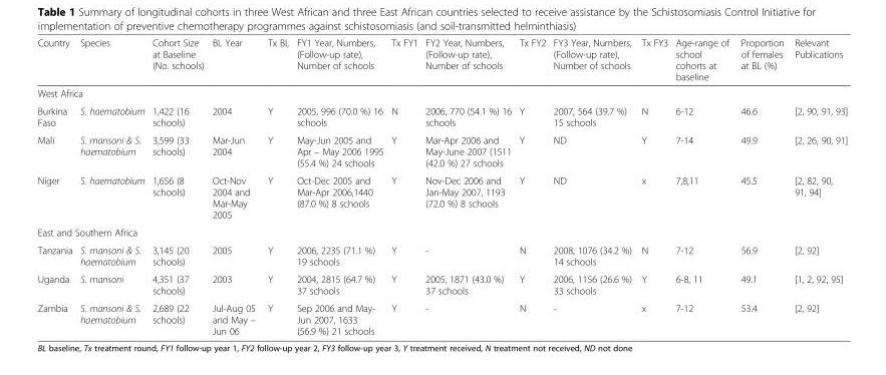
<table><thead><tr><td>Country</td><td>Species</td><td>Cohort Size at Baseline (No. schools)</td><td>BL Year</td><td>Tx BL</td><td>FY1 Year, Numbers, (Follow-up rate), Number of schools</td><td>Tx FY1</td><td>FY2 Year, Numbers, (Follow-up rate), Number of schools</td><td>Tx FY2</td><td>FY3 Year, Numbers, (Follow-up rate), Number of schools</td><td>Tx FY3</td><td>Age-range of school cohorts at baseline</td><td>Proportion of females at BL (%)</td><td>Relevant Publications</td></tr></thead><tbody><tr><td colspan="14">West Africa</td></tr><tr><td>Burkina Faso</td><td>S. haematobium</td><td>1,422 (16 schools)</td><td>2004</td><td>Y</td><td>2005, 996 (70.0 %) 16 schools</td><td>N</td><td>2006, 770 (54.1 %) 16 schools</td><td>Y</td><td>2007, 564 (39.7 %) 15 schools</td><td>N</td><td>6-12</td><td>46.6</td><td>[2, 90, 91, 93]</td></tr><tr><td>Mali</td><td>S. mansoni &amp; S. haematobium</td><td>3,599 (33 schools)</td><td>Mar-Jun 2004</td><td>Y</td><td>May-Jun 2005 and Apr – May 2006 1995 (55.4 %) 24 schools</td><td>Y</td><td>Mar-Apr 2006 and May-June 2007 (1511 (42.0 %) 27 schools</td><td>Y</td><td>ND</td><td>Y</td><td>7-14</td><td>49.9</td><td>[2, 26, 90, 91]</td></tr><tr><td>Niger</td><td>S. haematobium</td><td>1,656 (8 schools)</td><td>Oct-Nov 2004 and Mar-May 2005</td><td>Y</td><td>Oct-Dec 2005 and Mar-Apr 2006,1440 (87.0 %) 8 schools</td><td>Y</td><td>Nov-Dec 2006 and Jan-May 2007, 1193 (72.0 %) 8 schools</td><td>Y</td><td>ND</td><td>x</td><td>7,8,11</td><td>45.5</td><td>[2, 82, 90, 91, 94]</td></tr><tr><td colspan="14">East and Southern Africa</td></tr><tr><td>Tanzania</td><td>S. mansoni &amp; S. haematobium</td><td>3,145 (20 schools)</td><td>2005</td><td>Y</td><td>2006, 2235 (71.1 %) 19 schools</td><td>Y</td><td>-</td><td>N</td><td>2008, 1076 (34.2 %) 14 schools</td><td>N</td><td>7-12</td><td>56.9</td><td>[2, 92]</td></tr><tr><td>Uganda</td><td>S. mansoni</td><td>4,351 (37 schools)</td><td>2003</td><td>Y</td><td>2004, 2815 (64.7 %) 37 schools</td><td>Y</td><td>2005, 1871 (43.0 %) 37 schools</td><td>Y</td><td>2006, 1156 (26.6 %) 33 schools</td><td>Y</td><td>6-8, 11</td><td>49.1</td><td>[1, 2, 92, 95]</td></tr><tr><td>Zambia</td><td>S. mansoni &amp; S. haematobium</td><td>2,689 (22 schools)</td><td>Jul-Aug 05 and May – Jun 06</td><td>Y</td><td>Sep 2006 and May- Jun 2007, 1633 (56.9 %) 21 schools</td><td>Y</td><td>-</td><td>N</td><td>-</td><td>x</td><td>7-12</td><td>53.4</td><td>[2, 92]</td></tr></tbody></table>